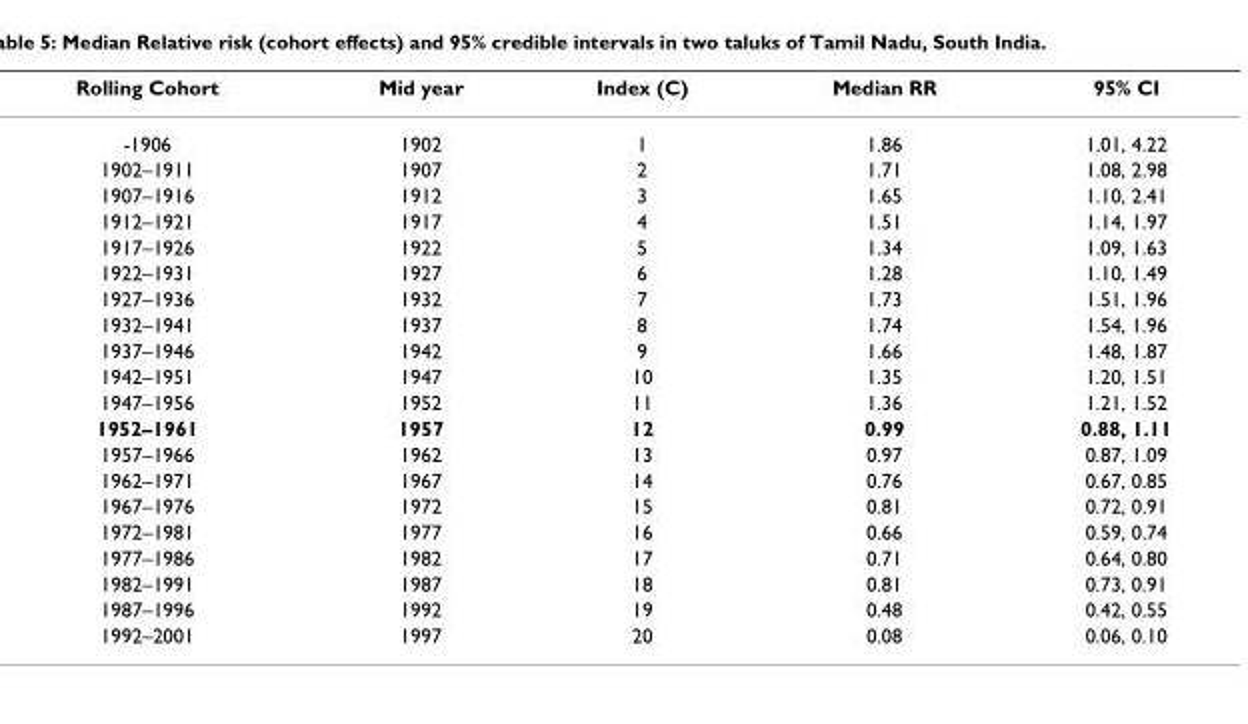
<table><thead><tr><td>Rolling Cohort</td><td>Mid year</td><td>Index (C)</td><td>Median RR</td><td>95% CI</td></tr></thead><tbody><tr><td>-1906</td><td>1902</td><td>1</td><td>1.86</td><td>1.01, 4.22</td></tr><tr><td>1902–1911</td><td>1907</td><td>2</td><td>1.71</td><td>1.08, 2.98</td></tr><tr><td>1907–1916</td><td>1912</td><td>3</td><td>1.65</td><td>1.10, 2.41</td></tr><tr><td>1912–1921</td><td>1917</td><td>4</td><td>1.51</td><td>1.14, 1.97</td></tr><tr><td>1917–1926</td><td>1922</td><td>5</td><td>1.34</td><td>1.09, 1.63</td></tr><tr><td>1922–1931</td><td>1927</td><td>6</td><td>1.28</td><td>1.10, 1.49</td></tr><tr><td>1927–1936</td><td>1932</td><td>7</td><td>1.73</td><td>1.51, 1.96</td></tr><tr><td>1932–1941</td><td>1937</td><td>8</td><td>1.74</td><td>1.54, 1.96</td></tr><tr><td>1937–1946</td><td>1942</td><td>9</td><td>1.66</td><td>1.48, 1.87</td></tr><tr><td>1942–1951</td><td>1947</td><td>10</td><td>1.35</td><td>1.20, 1.51</td></tr><tr><td>1947–1956</td><td>1952</td><td>11</td><td>1.36</td><td>1.21, 1.52</td></tr><tr><td>1952–1961</td><td>1957</td><td>12</td><td>0.99</td><td>0.88, 1.11</td></tr><tr><td>1957–1966</td><td>1962</td><td>13</td><td>0.97</td><td>0.87, 1.09</td></tr><tr><td>1962–1971</td><td>1967</td><td>14</td><td>0.76</td><td>0.67, 0.85</td></tr><tr><td>1967–1976</td><td>1972</td><td>15</td><td>0.81</td><td>0.72, 0.91</td></tr><tr><td>1972–1981</td><td>1977</td><td>16</td><td>0.66</td><td>0.59, 0.74</td></tr><tr><td>1977–1986</td><td>1982</td><td>17</td><td>0.71</td><td>0.64, 0.80</td></tr><tr><td>1982–1991</td><td>1987</td><td>18</td><td>0.81</td><td>0.73, 0.91</td></tr><tr><td>1987–1996</td><td>1992</td><td>19</td><td>0.48</td><td>0.42, 0.55</td></tr><tr><td>1992–2001</td><td>1997</td><td>20</td><td>0.08</td><td>0.06, 0.10</td></tr></tbody></table>